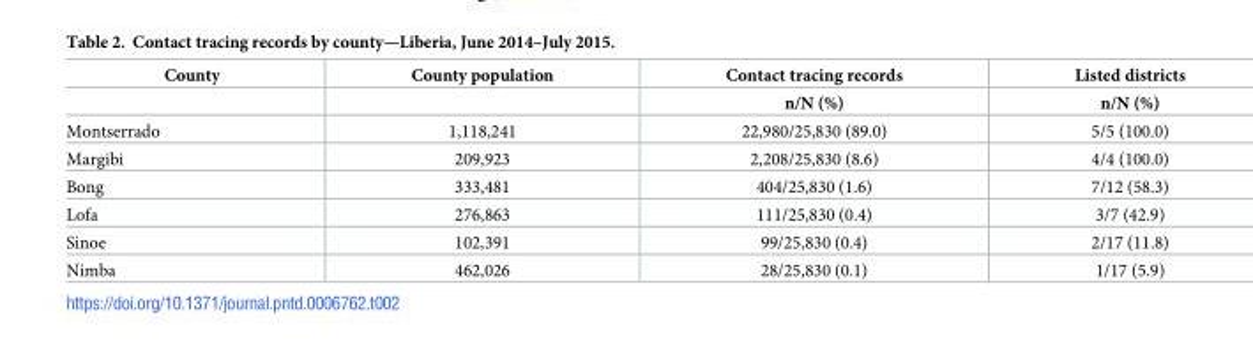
<table><thead><tr><td rowspan="2">County</td><td rowspan="2">County population</td><td rowspan="2">Contact tracing records n/N (%)</td><td rowspan="2">Listed districts n/N (%)</td></tr><tr></tr></thead><tbody><tr><td>Montserrado</td><td>1,118,241</td><td>22,980/25,830 (89.0)</td><td>5/5 (100.0)</td></tr><tr><td>Margibi</td><td>209,923</td><td>2,208/25,830 (8.6)</td><td>4/4 (100.0)</td></tr><tr><td>Bong</td><td>333,481</td><td>404/25,830 (1.6)</td><td>7/12 (58.3)</td></tr><tr><td>Lofa</td><td>276,863</td><td>111/25,830 (0.4)</td><td>3/7 (42.9)</td></tr><tr><td>Sinoe</td><td>102,391</td><td>99/25,830 (0.4)</td><td>2/17 (11.8)</td></tr><tr><td>Nimba</td><td>462,026</td><td>28/25,830 (0.1)</td><td>1/17 (5.9)</td></tr></tbody></table>